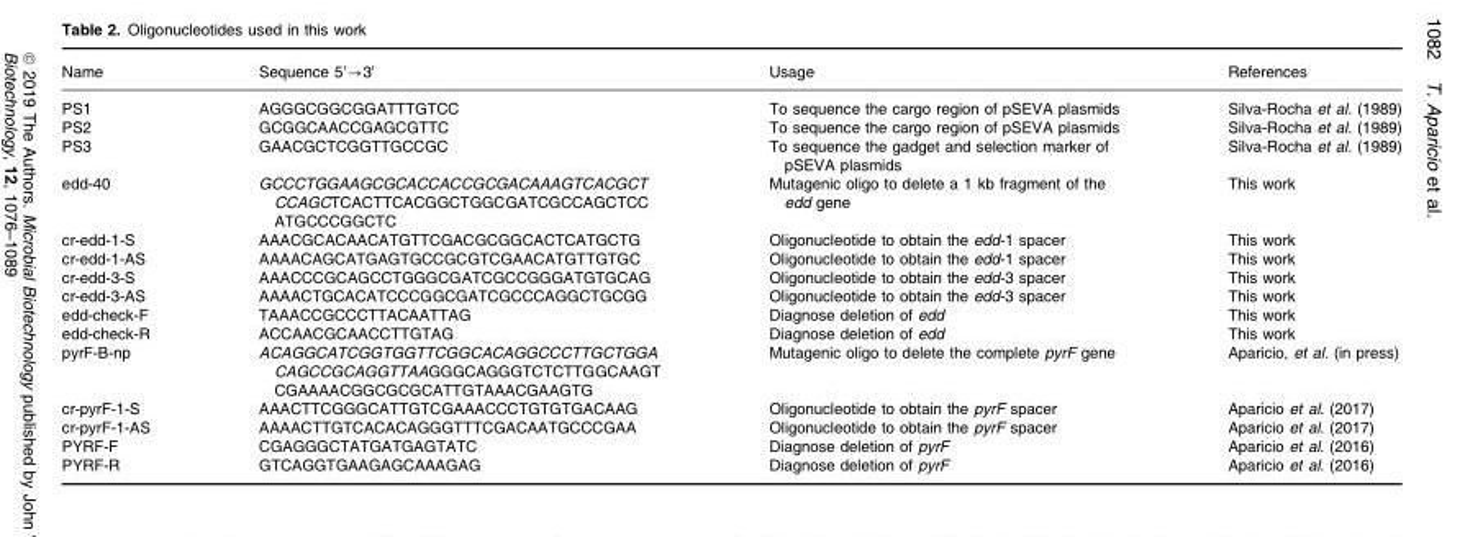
<table><thead><tr><td>Name</td><td>Sequence 5′→3′</td><td>Usage</td><td>References</td></tr></thead><tbody><tr><td>PS1</td><td>AGGGCGGCGGATTTGTCC</td><td>To sequence the cargo region of pSEVA plasmids</td><td>Silva-Rocha et al. (1989)</td></tr><tr><td>PS2</td><td>GCGGCAACCGAGCGTTC</td><td>To sequence the cargo region of pSEVA plasmids</td><td>Silva-Rocha et al. (1989)</td></tr><tr><td>PS3</td><td>GAACGCTCGGTTGCCGC</td><td>To sequence the gadget and selection marker of pSEVA plasmids</td><td>Silva-Rocha et al. (1989)</td></tr><tr><td>edd-40</td><td>GCCCTGGAAGCGCACCACCGCGACAAAGTCACGCT CCAGCTCACTTCACGGCTGGCGATCGCCAGCTCC ATGCCCGGCTC</td><td>Mutagenic oligo to delete a 1 kb fragment of the edd gene</td><td>This work</td></tr><tr><td>cr-edd-1-S</td><td>AAACGCACAACATGTTCGACGCGGCACTCATGCTG</td><td>Oligonucleotide to obtain the edd-1 spacer</td><td>This work</td></tr><tr><td>cr-edd-1-AS</td><td>AAAACAGCATGAGTGCCGCGTCGAACATGTTGTGC</td><td>Oligonucleotide to obtain the edd-1 spacer</td><td>This work</td></tr><tr><td>cr-edd-3-S</td><td>AAACCCGCAGCCTGGGCGATCGCCGGGATGTGCAG</td><td>Oligonucleotide to obtain the edd-3 spacer</td><td>This work</td></tr><tr><td>cr-edd-3-AS</td><td>AAAACTGCACATCCCGGCGATCGCCCAGGCTGCGG</td><td>Oligonucleotide to obtain the edd-3 spacer</td><td>This work</td></tr><tr><td>edd-check-F</td><td>TAAACCGCCCTTACAATTAG</td><td>Diagnose deletion of edd</td><td>This work</td></tr><tr><td>edd-check-R</td><td>ACCAACGCAACCTTGTAG</td><td>Diagnose deletion of edd</td><td>This work</td></tr><tr><td>pyrF-B-np</td><td>ACAGGCATCGGTGGTTCGGCACAGGCCCTTGCTGGA CAGCCGCAGGTTAAGGGCAGGGTCTCTTGGCAAGT CGAAAACGGCGCGCATTGTAAACGAAGTG</td><td>Mutagenic oligo to delete the complete pyrF gene</td><td>Aparicio, et al. (in press)</td></tr><tr><td>cr-pyrF-1-S</td><td>AAACTTCGGGCATTGTCGAAACCCTGTGTGACAAG</td><td>Oligonucleotide to obtain the pyrF spacer</td><td>Aparicio et al. (2017)</td></tr><tr><td>cr-pyrF-1-AS</td><td>AAAACTTGTCACACAGGGTTTCGACAATGCCCGAA</td><td>Oligonucleotide to obtain the pyrF spacer</td><td>Aparicio et al. (2017)</td></tr><tr><td>PYRF-F</td><td>CGAGGGCTATGATGAGTATC</td><td>Diagnose deletion of pyrF</td><td>Aparicio et al. (2016)</td></tr><tr><td>PYRF-R</td><td>GTCAGGTGAAGAGCAAAGAG</td><td>Diagnose deletion of pyrF</td><td>Aparicio et al. (2016)</td></tr></tbody></table>